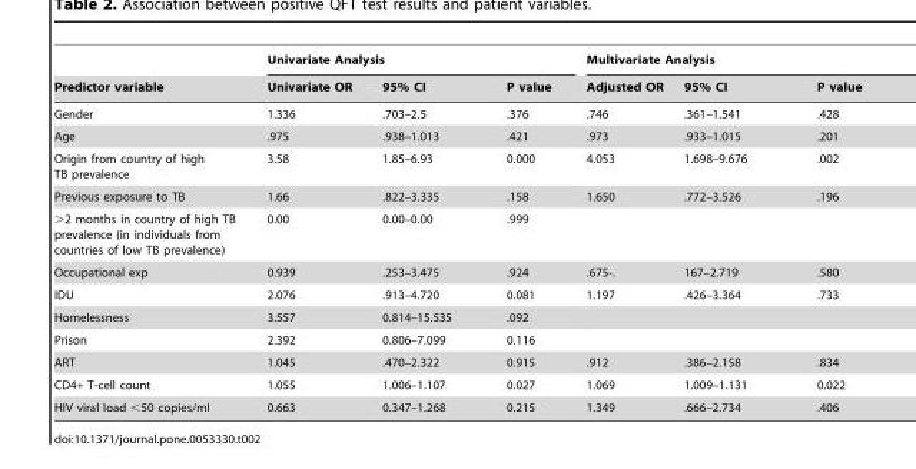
<table><thead><tr><td rowspan="2">Predictor variable</td><td colspan="3">Univariate Analysis</td><td colspan="3">Multivariate Analysis</td></tr><tr><td>Univariate OR</td><td>95% CI</td><td>P value</td><td>Adjusted OR</td><td>95% CI</td><td>P value</td></tr></thead><tbody><tr><td>Gender</td><td>1.336</td><td>.703–2.5</td><td>.376</td><td>.746</td><td>.361–1.541</td><td>.428</td></tr><tr><td>Age</td><td>.975</td><td>.938–1.013</td><td>.421</td><td>.973</td><td>.933–1.015</td><td>.201</td></tr><tr><td>Origin from country of high TB prevalence</td><td>3.58</td><td>1.85–6.93</td><td>0.000</td><td>4.053</td><td>1.698–9.676</td><td>.002</td></tr><tr><td>Previous exposure to TB</td><td>1.66</td><td>.822–3.335</td><td>.158</td><td>1.650</td><td>.772–3.526</td><td>.196</td></tr><tr><td>&gt;2 months in country of high TB prevalence (in individuals from countries of low TB prevalence)</td><td>0.00</td><td>0.00–0.00</td><td>.999</td><td></td><td></td><td></td></tr><tr><td>Occupational exp</td><td>0.939</td><td>.253–3.475</td><td>.924</td><td>.675-.</td><td>167–2.719</td><td>.580</td></tr><tr><td>IDU</td><td>2.076</td><td>.913–4.720</td><td>0.081</td><td>1.197</td><td>.426–3.364</td><td>.733</td></tr><tr><td>Homelessness</td><td>3.557</td><td>0.814–15.535</td><td>.092</td><td></td><td></td><td></td></tr><tr><td>Prison</td><td>2.392</td><td>0.806–7.099</td><td>0.116</td><td></td><td></td><td></td></tr><tr><td>ART</td><td>1.045</td><td>.470–2.322</td><td>0.915</td><td>.912</td><td>.386–2.158</td><td>.834</td></tr><tr><td>CD4+ T-cell count</td><td>1.055</td><td>1.006–1.107</td><td>0.027</td><td>1.069</td><td>1.009–1.131</td><td>0.022</td></tr><tr><td>HIV viral load &lt;50 copies/ml</td><td>0.663</td><td>0.347–1.268</td><td>0.215</td><td>1.349</td><td>.666–2.734</td><td>.406</td></tr></tbody></table>